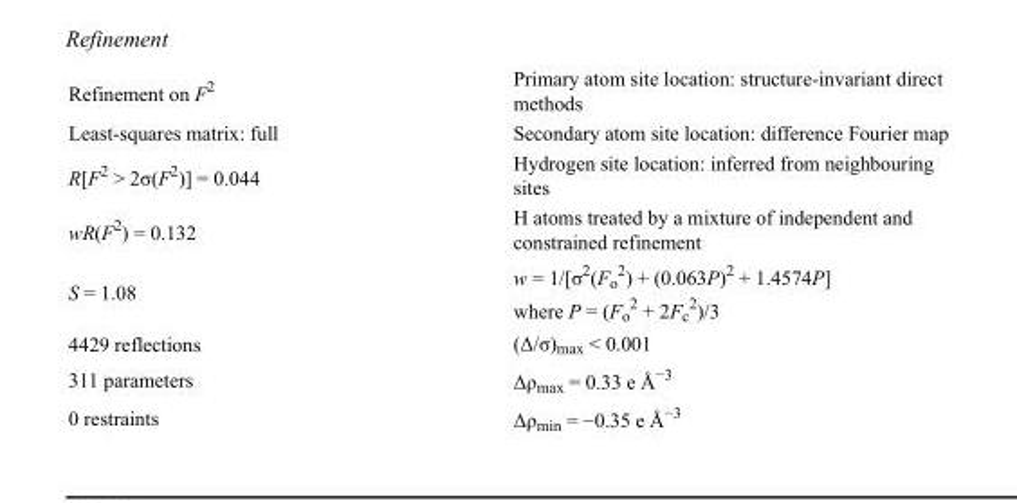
<table><tbody><tr><td>Refinement on F<sup>2</sup></td><td>Primary atom site location: structure-invariant direct methods</td></tr><tr><td>Least-squares matrix: full</td><td>Secondary atom site location: difference Fourier map</td></tr><tr><td>R[F<sup>2</sup> &gt; 2σ(F<sup>2</sup>)] = 0.044</td><td>Hydrogen site location: inferred from neighbouring sites</td></tr><tr><td>wR(F<sup>2</sup>) = 0.132</td><td>H atoms treated by a mixture of independent and constrained refinement</td></tr><tr><td>S = 1.08</td><td>w = 1/[σ<sup>2</sup>(F<sub>o</sub> <sup>2</sup>) + (0.063P)<sup>2</sup> + 1.4574P] where P = (F<sub>o</sub> <sup>2</sup> + 2F<sub>c</sub> <sup>2</sup>)/3</td></tr><tr><td>4429 reflections</td><td>(Δ/σ)<sub>max</sub> &lt; 0.001</td></tr><tr><td>311 parameters</td><td>Δρ<sub>max</sub> = 0.33 e Å<sup>−3</sup></td></tr><tr><td>0 restraints</td><td>Δρ<sub>min</sub> = −0.35 e Å<sup>−3</sup></td></tr></tbody></table>